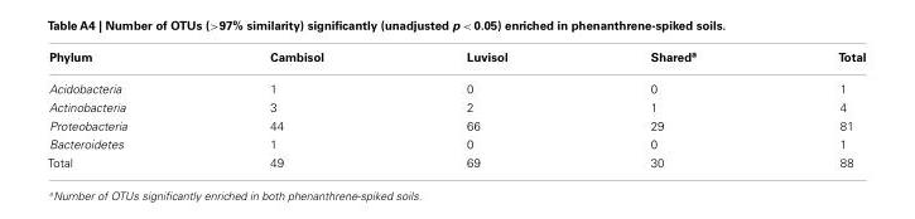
<table><thead><tr><td>Phylum</td><td>Cambisol</td><td>Luvisol</td><td>Shared<sup>a</sup></td><td>Total</td></tr></thead><tbody><tr><td>Acidobacteria</td><td>1</td><td>0</td><td>0</td><td>1</td></tr><tr><td>Actinobacteria</td><td>3</td><td>2</td><td>1</td><td>4</td></tr><tr><td>Proteobacteria</td><td>44</td><td>66</td><td>29</td><td>81</td></tr><tr><td>Bacteroidetes</td><td>1</td><td>0</td><td>0</td><td>1</td></tr><tr><td>Total</td><td>49</td><td>69</td><td>30</td><td>88</td></tr></tbody></table>